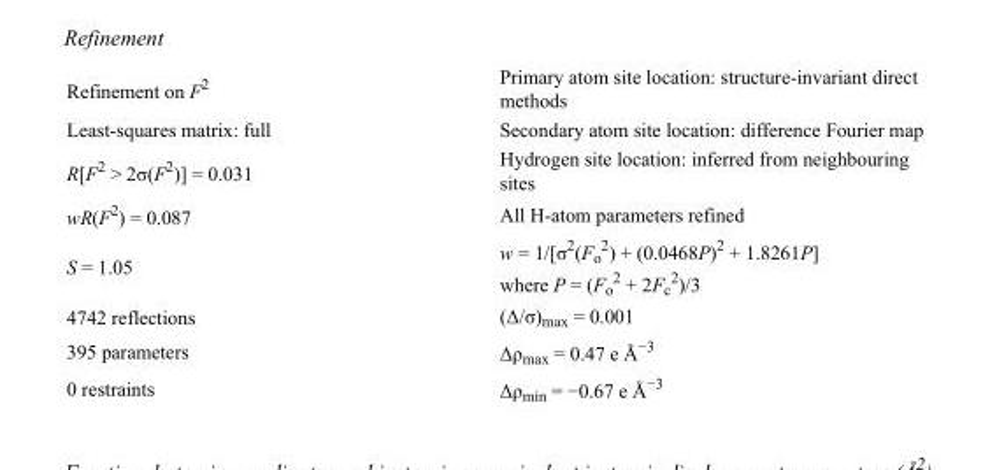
<table><tbody><tr><td>Refinement on F<sup>2</sup></td><td>Primary atom site location: structure-invariant direct methods</td></tr><tr><td>Least-squares matrix: full</td><td>Secondary atom site location: difference Fourier map</td></tr><tr><td>R[F<sup>2</sup> &gt; 2σ(F<sup>2</sup>)] = 0.031</td><td>Hydrogen site location: inferred from neighbouring sites</td></tr><tr><td>wR(F<sup>2</sup>) = 0.087</td><td>All H-atom parameters refined</td></tr><tr><td>S = 1.05</td><td>w = 1/[σ<sup>2</sup>(F<sub>o</sub> <sup>2</sup>) + (0.0468P)<sup>2</sup> + 1.8261P] where P = (F<sub>o</sub> <sup>2</sup> + 2F<sub>c</sub> <sup>2</sup>)/3</td></tr><tr><td>4742 reflections</td><td>(Δ/σ)<sub>max</sub> = 0.001</td></tr><tr><td>395 parameters</td><td>Δρ<sub>max</sub> = 0.47 e Å<sup>−3</sup></td></tr><tr><td>0 restraints</td><td>Δρ<sub>min</sub> = −0.67 e Å<sup>−3</sup></td></tr></tbody></table>